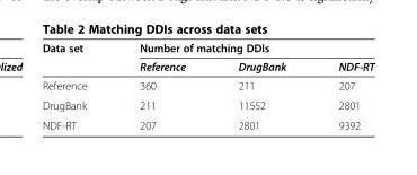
<table><thead><tr><td rowspan="2">Data set</td><td colspan="3">Number of matching DDIs</td></tr><tr><td>Reference</td><td>DrugBank</td><td>NDF-RT</td></tr></thead><tbody><tr><td>Reference</td><td>360</td><td>211</td><td>207</td></tr><tr><td>DrugBank</td><td>211</td><td>11552</td><td>2801</td></tr><tr><td>NDF-RT</td><td>207</td><td>2801</td><td>9392</td></tr></tbody></table>